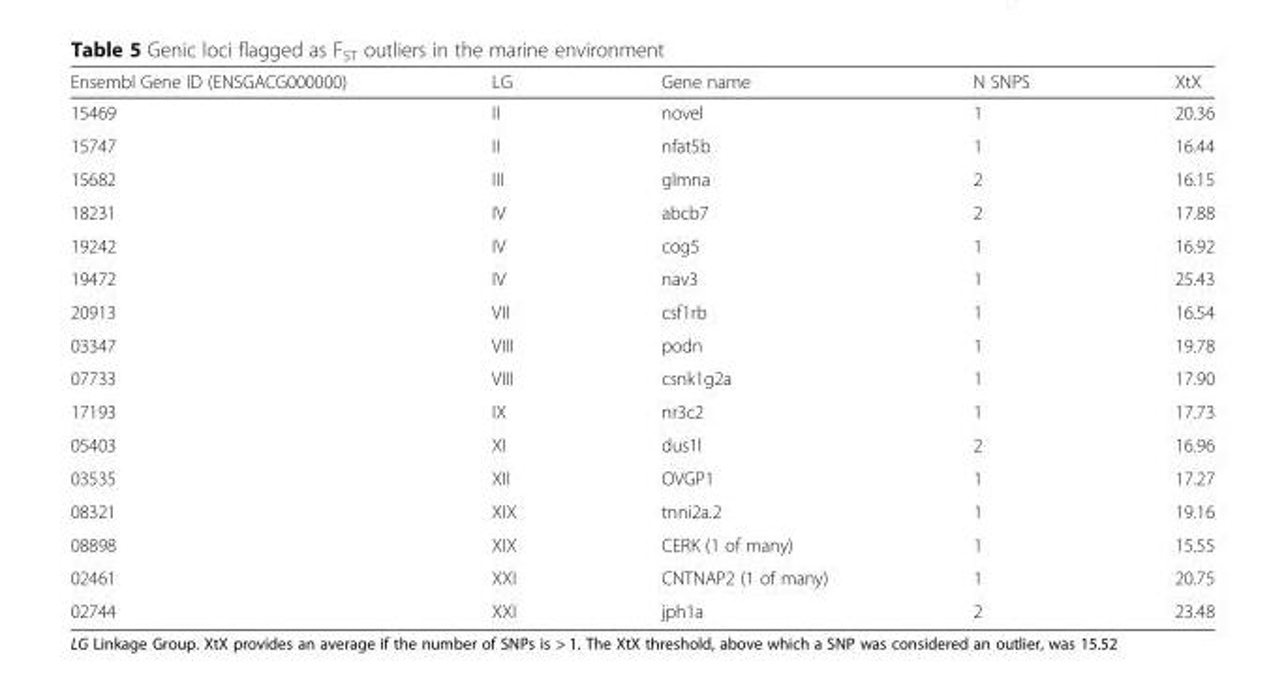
<table><thead><tr><td>Ensembl Gene ID (ENSGACG000000)</td><td>LG</td><td>Gene name</td><td>N SNPS</td><td>XtX</td></tr></thead><tbody><tr><td>15469</td><td>II</td><td>novel</td><td>1</td><td>20.36</td></tr><tr><td>15747</td><td>II</td><td>nfat5b</td><td>1</td><td>16.44</td></tr><tr><td>15682</td><td>III</td><td>glmna</td><td>2</td><td>16.15</td></tr><tr><td>18231</td><td>IV</td><td>abcb7</td><td>2</td><td>17.88</td></tr><tr><td>19242</td><td>IV</td><td>cog5</td><td>1</td><td>16.92</td></tr><tr><td>19472</td><td>IV</td><td>nav3</td><td>1</td><td>25.43</td></tr><tr><td>20913</td><td>VII</td><td>csf1rb</td><td>1</td><td>16.54</td></tr><tr><td>03347</td><td>VIII</td><td>podn</td><td>1</td><td>19.78</td></tr><tr><td>07733</td><td>VIII</td><td>csnk1g2a</td><td>1</td><td>17.90</td></tr><tr><td>17193</td><td>IX</td><td>nr3c2</td><td>1</td><td>17.73</td></tr><tr><td>05403</td><td>XI</td><td>dus1l</td><td>2</td><td>16.96</td></tr><tr><td>03535</td><td>XII</td><td>OVGP1</td><td>1</td><td>17.27</td></tr><tr><td>08321</td><td>XIX</td><td>tnni2a.2</td><td>1</td><td>19.16</td></tr><tr><td>08898</td><td>XIX</td><td>CERK (1 of many)</td><td>1</td><td>15.55</td></tr><tr><td>02461</td><td>XXI</td><td>CNTNAP2 (1 of many)</td><td>1</td><td>20.75</td></tr><tr><td>02744</td><td>XXI</td><td>jph1a</td><td>2</td><td>23.48</td></tr></tbody></table>